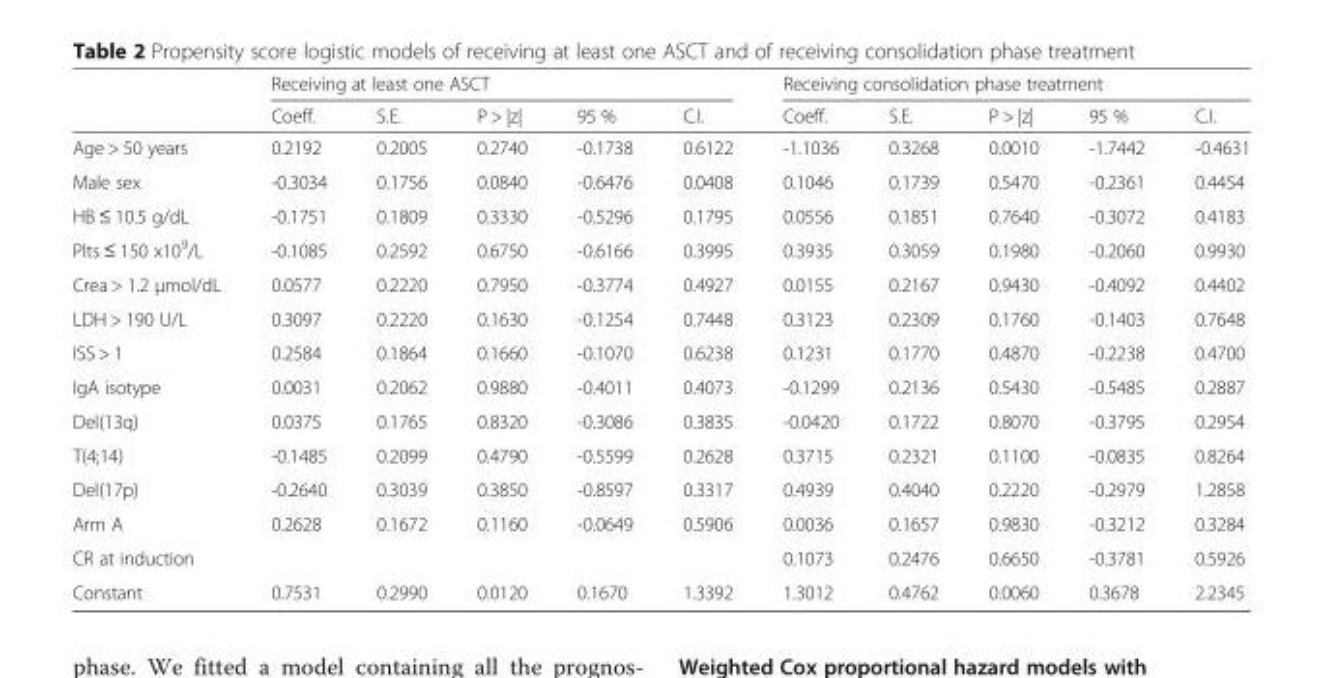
<table><thead><tr><td rowspan="2"></td><td colspan="5">Receiving at least one ASCT</td><td colspan="5">Receiving consolidation phase treatment</td></tr><tr><td>Coeff.</td><td>S.E.</td><td>P &gt; |z|</td><td>95 %</td><td>C.I.</td><td>Coeff.</td><td>S.E.</td><td>P &gt; |z|</td><td>95 %</td><td>C.I.</td></tr></thead><tbody><tr><td>Age &gt; 50 years</td><td>0.2192</td><td>0.2005</td><td>0.2740</td><td>-0.1738</td><td>0.6122</td><td>-1.1036</td><td>0.3268</td><td>0.0010</td><td>-1.7442</td><td>-0.4631</td></tr><tr><td>Male sex</td><td>-0.3034</td><td>0.1756</td><td>0.0840</td><td>-0.6476</td><td>0.0408</td><td>0.1046</td><td>0.1739</td><td>0.5470</td><td>-0.2361</td><td>0.4454</td></tr><tr><td>HB ≤ 10.5 g/dL</td><td>-0.1751</td><td>0.1809</td><td>0.3330</td><td>-0.5296</td><td>0.1795</td><td>0.0556</td><td>0.1851</td><td>0.7640</td><td>-0.3072</td><td>0.4183</td></tr><tr><td>Plts ≤ 150 x10<sup>9</sup>/L</td><td>-0.1085</td><td>0.2592</td><td>0.6750</td><td>-0.6166</td><td>0.3995</td><td>0.3935</td><td>0.3059</td><td>0.1980</td><td>-0.2060</td><td>0.9930</td></tr><tr><td>Crea &gt; 1.2 μmol/dL</td><td>0.0577</td><td>0.2220</td><td>0.7950</td><td>-0.3774</td><td>0.4927</td><td>0.0155</td><td>0.2167</td><td>0.9430</td><td>-0.4092</td><td>0.4402</td></tr><tr><td>LDH &gt; 190 U/L</td><td>0.3097</td><td>0.2220</td><td>0.1630</td><td>-0.1254</td><td>0.7448</td><td>0.3123</td><td>0.2309</td><td>0.1760</td><td>-0.1403</td><td>0.7648</td></tr><tr><td>ISS &gt; 1</td><td>0.2584</td><td>0.1864</td><td>0.1660</td><td>-0.1070</td><td>0.6238</td><td>0.1231</td><td>0.1770</td><td>0.4870</td><td>-0.2238</td><td>0.4700</td></tr><tr><td>IgA isotype</td><td>0.0031</td><td>0.2062</td><td>0.9880</td><td>-0.4011</td><td>0.4073</td><td>-0.1299</td><td>0.2136</td><td>0.5430</td><td>-0.5485</td><td>0.2887</td></tr><tr><td>Del(13q)</td><td>0.0375</td><td>0.1765</td><td>0.8320</td><td>-0.3086</td><td>0.3835</td><td>-0.0420</td><td>0.1722</td><td>0.8070</td><td>-0.3795</td><td>0.2954</td></tr><tr><td>T(4;14)</td><td>-0.1485</td><td>0.2099</td><td>0.4790</td><td>-0.5599</td><td>0.2628</td><td>0.3715</td><td>0.2321</td><td>0.1100</td><td>-0.0835</td><td>0.8264</td></tr><tr><td>Del(17p)</td><td>-0.2640</td><td>0.3039</td><td>0.3850</td><td>-0.8597</td><td>0.3317</td><td>0.4939</td><td>0.4040</td><td>0.2220</td><td>-0.2979</td><td>1.2858</td></tr><tr><td>Arm A</td><td>0.2628</td><td>0.1672</td><td>0.1160</td><td>-0.0649</td><td>0.5906</td><td>0.0036</td><td>0.1657</td><td>0.9830</td><td>-0.3212</td><td>0.3284</td></tr><tr><td colspan="2">CR at induction</td><td></td><td></td><td></td><td></td><td>0.1073</td><td>0.2476</td><td>0.6650</td><td>-0.3781</td><td>0.5926</td></tr><tr><td>Constant</td><td>0.7531</td><td>0.2990</td><td>0.0120</td><td>0.1670</td><td>1.3392</td><td>1.3012</td><td>0.4762</td><td>0.0060</td><td>0.3678</td><td>2.2345</td></tr></tbody></table>